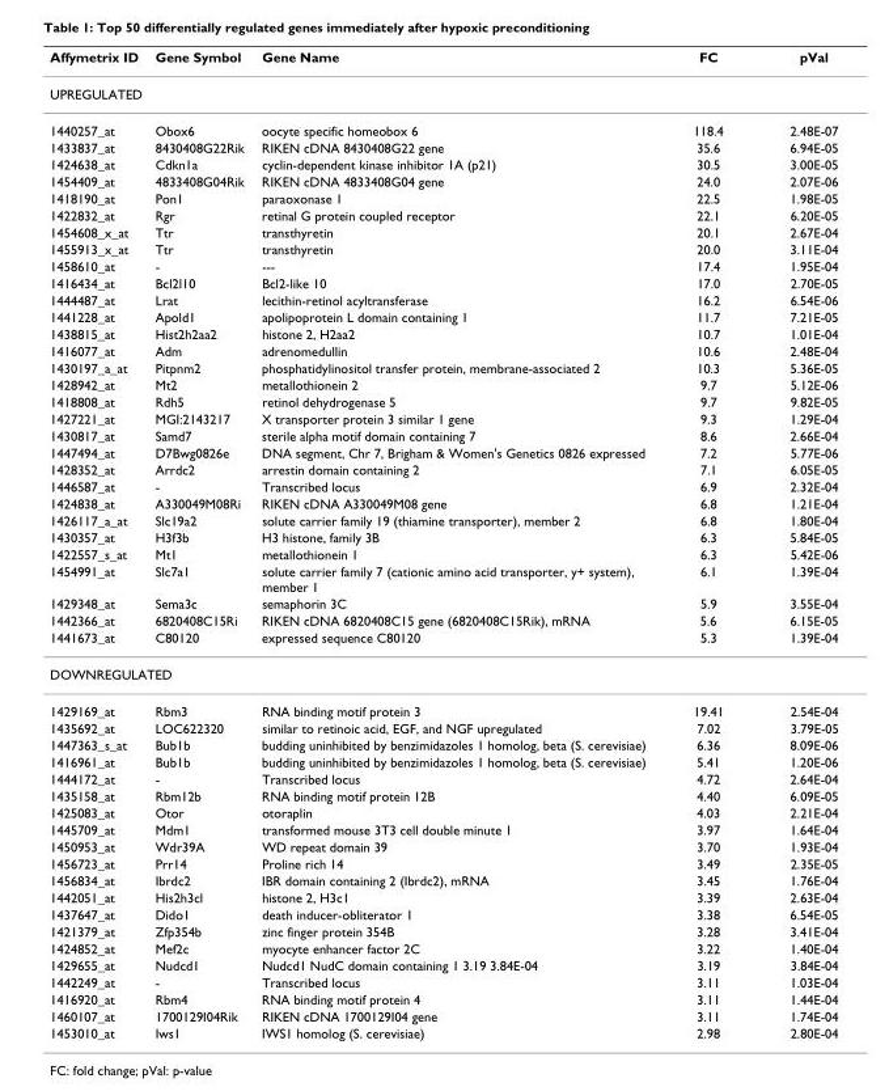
<table><thead><tr><td>Affymetrix ID</td><td>Gene Symbol</td><td>Gene Name</td><td>FC</td><td>pVal</td></tr></thead><tbody><tr><td colspan="5">UPREGULATED</td></tr><tr><td>1440257_at</td><td>Obox6</td><td>oocyte specific homeobox 6</td><td>118.4</td><td>2.48E-07</td></tr><tr><td>1433837_at</td><td>8430408G22Rik</td><td>RIKEN cDNA 8430408G22 gene</td><td>35.6</td><td>6.94E-05</td></tr><tr><td>1424638_at</td><td>Cdkn1a</td><td>cyclin-dependent kinase inhibitor 1A (p21)</td><td>30.5</td><td>3.00E-05</td></tr><tr><td>1454409_at</td><td>4833408G04Rik</td><td>RIKEN cDNA 4833408G04 gene</td><td>24.0</td><td>2.07E-06</td></tr><tr><td>1418190_at</td><td>Pon1</td><td>paraoxonase 1</td><td>22.5</td><td>1.98E-05</td></tr><tr><td>1422832_at</td><td>Rgr</td><td>retinal G protein coupled receptor</td><td>22.1</td><td>6.20E-05</td></tr><tr><td>1454608_x_at</td><td>Ttr</td><td>transthyretin</td><td>20.1</td><td>2.67E-04</td></tr><tr><td>1455913_x_at</td><td>Ttr</td><td>transthyretin</td><td>20.0</td><td>3.11E-04</td></tr><tr><td>1458610_at</td><td>-</td><td>---</td><td>17.4</td><td>1.95E-04</td></tr><tr><td>1416434_at</td><td>Bcl2l10</td><td>Bcl2-like 10</td><td>17.0</td><td>2.70E-05</td></tr><tr><td>1444487_at</td><td>Lrat</td><td>lecithin-retinol acyltransferase</td><td>16.2</td><td>6.54E-06</td></tr><tr><td>1441228_at</td><td>Apold1</td><td>apolipoprotein L domain containing 1</td><td>11.7</td><td>7.21E-05</td></tr><tr><td>1438815_at</td><td>Hist2h2aa2</td><td>histone 2, H2aa2</td><td>10.7</td><td>1.01E-04</td></tr><tr><td>1416077_at</td><td>Adm</td><td>adrenomedullin</td><td>10.6</td><td>2.48E-04</td></tr><tr><td>1430197_a_at</td><td>Pitpnm2</td><td>phosphatidylinositol transfer protein, membrane-associated 2</td><td>10.3</td><td>5.36E-05</td></tr><tr><td>1428942_at</td><td>Mt2</td><td>metallothionein 2</td><td>9.7</td><td>5.12E-06</td></tr><tr><td>1418808_at</td><td>Rdh5</td><td>retinol dehydrogenase 5</td><td>9.7</td><td>9.82E-05</td></tr><tr><td>1427221_at</td><td>MGI:2143217</td><td>X transporter protein 3 similar 1 gene</td><td>9.3</td><td>1.29E-04</td></tr><tr><td>1430817_at</td><td>Samd7</td><td>sterile alpha motif domain containing 7</td><td>8.6</td><td>2.66E-04</td></tr><tr><td>1447494_at</td><td>D7Bwg0826e</td><td>DNA segment, Chr 7, Brigham &amp; Women&#x27;s Genetics 0826 expressed</td><td>7.2</td><td>5.77E-06</td></tr><tr><td>1428352_at</td><td>Arrdc2</td><td>arrestin domain containing 2</td><td>7.1</td><td>6.05E-05</td></tr><tr><td>1446587_at</td><td>-</td><td>Transcribed locus</td><td>6.9</td><td>2.32E-04</td></tr><tr><td>1424838_at</td><td>A330049M08Ri</td><td>RIKEN cDNA A330049M08 gene</td><td>6.8</td><td>1.21E-04</td></tr><tr><td>1426117_a_at</td><td>Slc19a2</td><td>solute carrier family 19 (thiamine transporter), member 2</td><td>6.8</td><td>1.80E-04</td></tr><tr><td>1430357_at</td><td>H3f3b</td><td>H3 histone, family 3B</td><td>6.3</td><td>5.84E-05</td></tr><tr><td>1422557_s_at</td><td>Mt1</td><td>metallothionein 1</td><td>6.3</td><td>5.42E-06</td></tr><tr><td>1454991_at</td><td>Slc7a1</td><td>solute carrier family 7 (cationic amino acid transporter, y+ system), member 1</td><td>6.1</td><td>1.39E-04</td></tr><tr><td>1429348_at</td><td>Sema3c</td><td>semaphorin 3C</td><td>5.9</td><td>3.55E-04</td></tr><tr><td>1442366_at</td><td>6820408C15Ri</td><td>RIKEN cDNA 6820408C15 gene (6820408C15Rik), mRNA</td><td>5.6</td><td>6.15E-05</td></tr><tr><td>1441673_at</td><td>C80120</td><td>expressed sequence C80120</td><td>5.3</td><td>1.39E-04</td></tr><tr><td colspan="5">DOWNREGULATED</td></tr><tr><td>1429169_at</td><td>Rbm3</td><td>RNA binding motif protein 3</td><td>19.41</td><td>2.54E-04</td></tr><tr><td>1435692_at</td><td>LOC622320</td><td>similar to retinoic acid, EGF, and NGF upregulated</td><td>7.02</td><td>3.79E-05</td></tr><tr><td>1447363_s_at</td><td>Bub1b</td><td>budding uninhibited by benzimidazoles 1 homolog, beta (S. cerevisiae)</td><td>6.36</td><td>8.09E-06</td></tr><tr><td>1416961_at</td><td>Bub1b</td><td>budding uninhibited by benzimidazoles 1 homolog, beta (S. cerevisiae)</td><td>5.41</td><td>1.20E-06</td></tr><tr><td>1444172_at</td><td>-</td><td>Transcribed locus</td><td>4.72</td><td>2.64E-04</td></tr><tr><td>1435158_at</td><td>Rbm12b</td><td>RNA binding motif protein 12B</td><td>4.40</td><td>6.09E-05</td></tr><tr><td>1425083_at</td><td>Otor</td><td>otoraplin</td><td>4.03</td><td>2.21E-04</td></tr><tr><td>1445709_at</td><td>Mdm1</td><td>transformed mouse 3T3 cell double minute 1</td><td>3.97</td><td>1.64E-04</td></tr><tr><td>1450953_at</td><td>Wdr39A</td><td>WD repeat domain 39</td><td>3.70</td><td>1.93E-04</td></tr><tr><td>1456723_at</td><td>Prr14</td><td>Proline rich 14</td><td>3.49</td><td>2.35E-05</td></tr><tr><td>1456834_at</td><td>Ibrdc2</td><td>IBR domain containing 2 (Ibrdc2), mRNA</td><td>3.45</td><td>1.76E-04</td></tr><tr><td>1442051_at</td><td>His2h3cl</td><td>histone 2, H3c1</td><td>3.39</td><td>2.63E-04</td></tr><tr><td>1437647_at</td><td>Dido1</td><td>death inducer-obliterator 1</td><td>3.38</td><td>6.54E-05</td></tr><tr><td>1421379_at</td><td>Zfp354b</td><td>zinc finger protein 354B</td><td>3.28</td><td>3.41E-04</td></tr><tr><td>1424852_at</td><td>Mef2c</td><td>myocyte enhancer factor 2C</td><td>3.22</td><td>1.40E-04</td></tr><tr><td>1429655_at</td><td>Nudcd1</td><td>Nudcd1 NudC domain containing 1 3.19 3.84E-04</td><td>3.19</td><td>3.84E-04</td></tr><tr><td>1442249_at</td><td>-</td><td>Transcribed locus</td><td>3.11</td><td>1.03E-04</td></tr><tr><td>1416920_at</td><td>Rbm4</td><td>RNA binding motif protein 4</td><td>3.11</td><td>1.44E-04</td></tr><tr><td>1460107_at</td><td>1700129I04Rik</td><td>RIKEN cDNA 1700129I04 gene</td><td>3.11</td><td>1.74E-04</td></tr><tr><td>1453010_at</td><td>Iws1</td><td>IWS1 homolog (S. cerevisiae)</td><td>2.98</td><td>2.80E-04</td></tr></tbody></table>